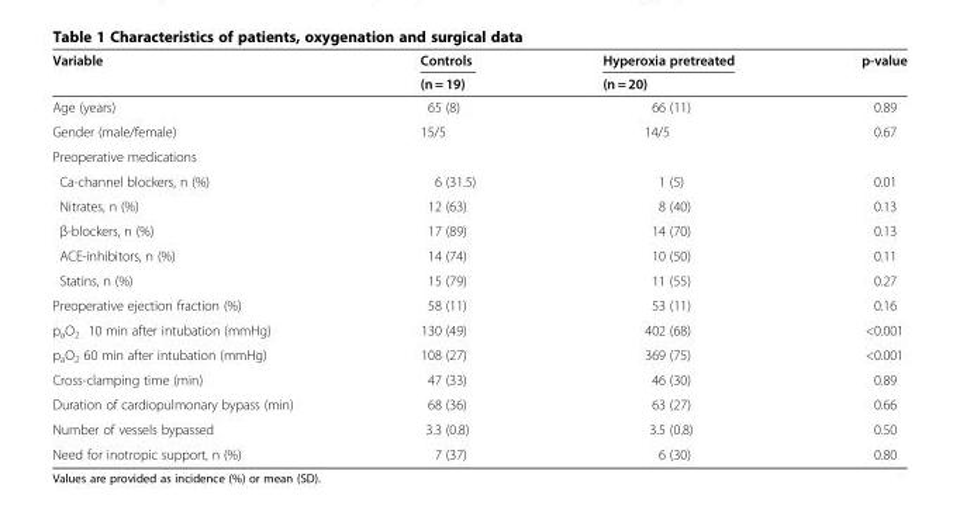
<table><thead><tr><td rowspan="2">Variable</td><td rowspan="2">Controls (n = 19)</td><td rowspan="2">Hyperoxia pretreated (n = 20)</td><td rowspan="2">p-value</td></tr><tr></tr></thead><tbody><tr><td>Age (years)</td><td>65 (8)</td><td>66 (11)</td><td>0.89</td></tr><tr><td>Gender (male/female)</td><td>15/5</td><td>14/5</td><td>0.67</td></tr><tr><td colspan="4">Preoperative medications</td></tr><tr><td>Ca-channel blockers, n (%)</td><td>6 (31.5)</td><td>1 (5)</td><td>0.01</td></tr><tr><td>Nitrates, n (%)</td><td>12 (63)</td><td>8 (40)</td><td>0.13</td></tr><tr><td>β-blockers, n (%)</td><td>17 (89)</td><td>14 (70)</td><td>0.13</td></tr><tr><td>ACE-inhibitors, n (%)</td><td>14 (74)</td><td>10 (50)</td><td>0.11</td></tr><tr><td>Statins, n (%)</td><td>15 (79)</td><td>11 (55)</td><td>0.27</td></tr><tr><td>Preoperative ejection fraction (%)</td><td>58 (11)</td><td>53 (11)</td><td>0.16</td></tr><tr><td>p<sub>a</sub>O<sub>2</sub> 10 min after intubation (mmHg)</td><td>130 (49)</td><td>402 (68)</td><td>&lt;0.001</td></tr><tr><td>p<sub>a</sub>O<sub>2</sub> 60 min after intubation (mmHg)</td><td>108 (27)</td><td>369 (75)</td><td>&lt;0.001</td></tr><tr><td>Cross-clamping time (min)</td><td>47 (33)</td><td>46 (30)</td><td>0.89</td></tr><tr><td>Duration of cardiopulmonary bypass (min)</td><td>68 (36)</td><td>63 (27)</td><td>0.66</td></tr><tr><td>Number of vessels bypassed</td><td>3.3 (0.8)</td><td>3.5 (0.8)</td><td>0.50</td></tr><tr><td>Need for inotropic support, n (%)</td><td>7 (37)</td><td>6 (30)</td><td>0.80</td></tr></tbody></table>